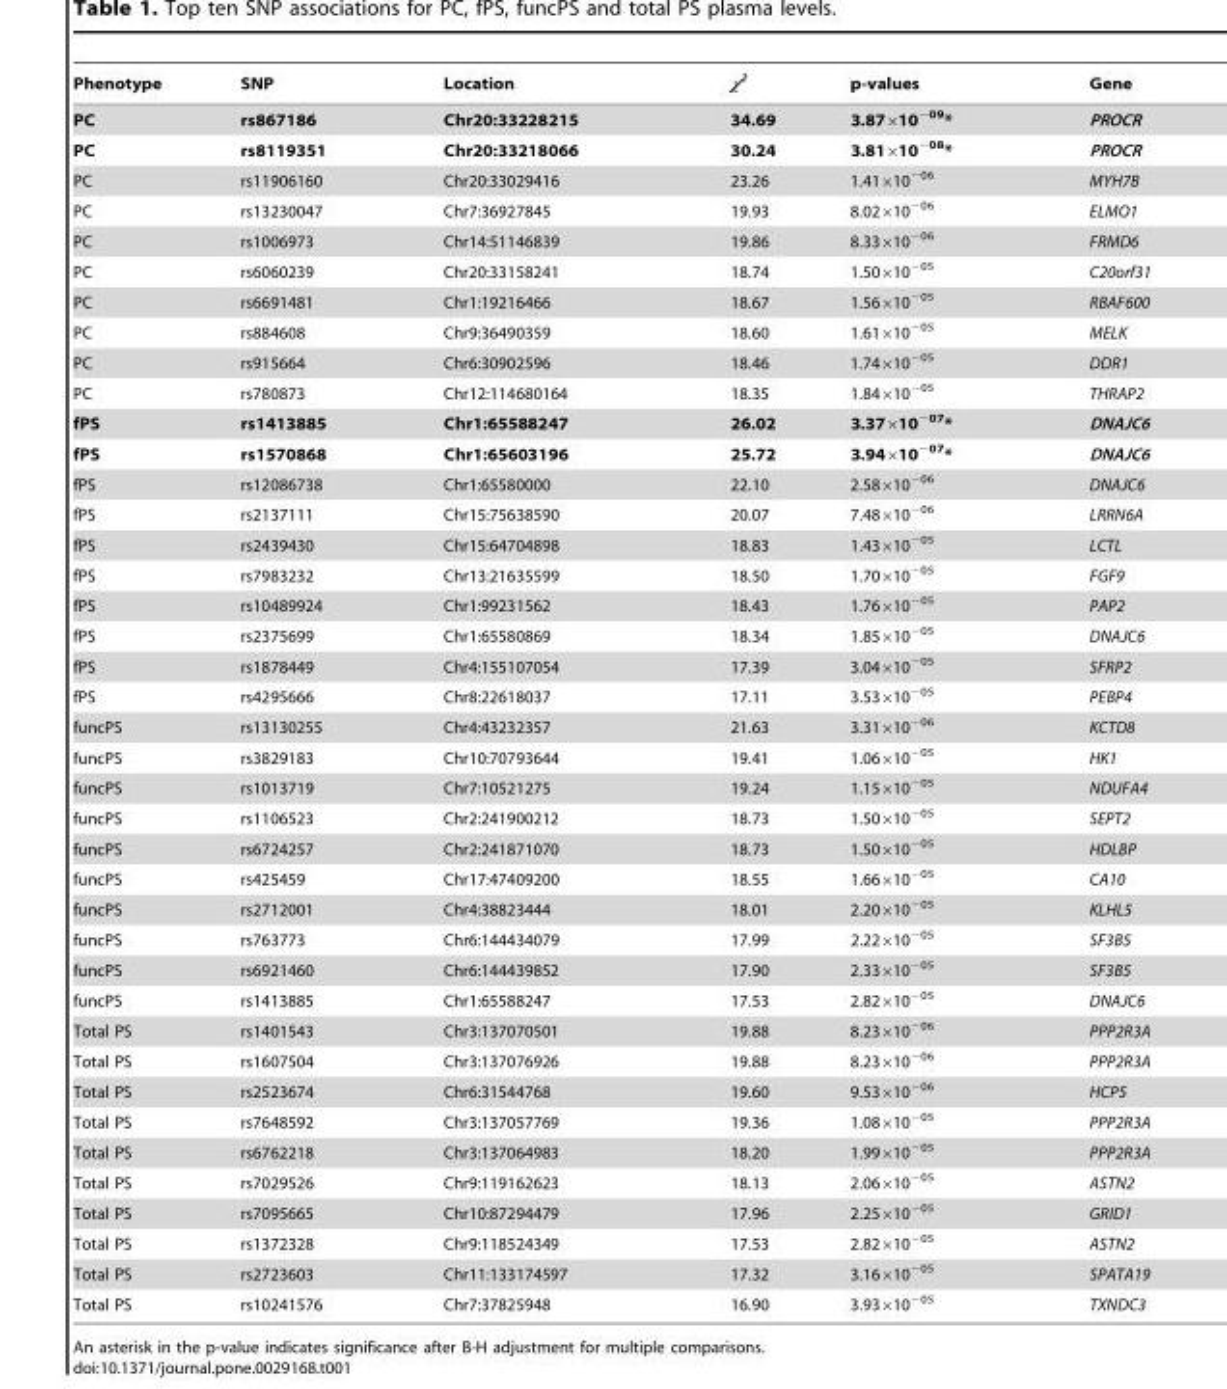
<table><thead><tr><td>Phenotype</td><td>SNP</td><td>Location</td><td>χ<sup>2</sup></td><td>p-values</td><td>Gene</td></tr></thead><tbody><tr><td>PC</td><td>rs867186</td><td>Chr20:33228215</td><td>34.69</td><td>3.87×10<sup>−09</sup>*</td><td>PROCR</td></tr><tr><td>PC</td><td>rs8119351</td><td>Chr20:33218066</td><td>30.24</td><td>3.81×10<sup>−08</sup>*</td><td>PROCR</td></tr><tr><td>PC</td><td>rs11906160</td><td>Chr20:33029416</td><td>23.26</td><td>1.41×10<sup>−06</sup></td><td>MYH7B</td></tr><tr><td>PC</td><td>rs13230047</td><td>Chr7:36927845</td><td>19.93</td><td>8.02×10<sup>−06</sup></td><td>ELMO1</td></tr><tr><td>PC</td><td>rs1006973</td><td>Chr14:51146839</td><td>19.86</td><td>8.33×10<sup>−06</sup></td><td>FRMD6</td></tr><tr><td>PC</td><td>rs6060239</td><td>Chr20:33158241</td><td>18.74</td><td>1.50×10<sup>−05</sup></td><td>C20orf31</td></tr><tr><td>PC</td><td>rs6691481</td><td>Chr1:19216466</td><td>18.67</td><td>1.56×10<sup>−05</sup></td><td>RBAF600</td></tr><tr><td>PC</td><td>rs884608</td><td>Chr9:36490359</td><td>18.60</td><td>1.61×10<sup>−05</sup></td><td>MELK</td></tr><tr><td>PC</td><td>rs915664</td><td>Chr6:30902596</td><td>18.46</td><td>1.74×10<sup>−05</sup></td><td>DDR1</td></tr><tr><td>PC</td><td>rs780873</td><td>Chr12:114680164</td><td>18.35</td><td>1.84×10<sup>−05</sup></td><td>THRAP2</td></tr><tr><td>fPS</td><td>rs1413885</td><td>Chr1:65588247</td><td>26.02</td><td>3.37×10<sup>−07</sup>*</td><td>DNAJC6</td></tr><tr><td>fPS</td><td>rs1570868</td><td>Chr1:65603196</td><td>25.72</td><td>3.94×10<sup>−07</sup>*</td><td>DNAJC6</td></tr><tr><td>fPS</td><td>rs12086738</td><td>Chr1:65580000</td><td>22.10</td><td>2.58×10<sup>−06</sup></td><td>DNAJC6</td></tr><tr><td>fPS</td><td>rs2137111</td><td>Chr15:75638590</td><td>20.07</td><td>7.48×10<sup>−06</sup></td><td>LRRN6A</td></tr><tr><td>fPS</td><td>rs2439430</td><td>Chr15:64704898</td><td>18.83</td><td>1.43×10<sup>−05</sup></td><td>LCTL</td></tr><tr><td>fPS</td><td>rs7983232</td><td>Chr13:21635599</td><td>18.50</td><td>1.70×10<sup>−05</sup></td><td>FGF9</td></tr><tr><td>fPS</td><td>rs10489924</td><td>Chr1:99231562</td><td>18.43</td><td>1.76×10<sup>−05</sup></td><td>PAP2</td></tr><tr><td>fPS</td><td>rs2375699</td><td>Chr1:65580869</td><td>18.34</td><td>1.85×10<sup>−05</sup></td><td>DNAJC6</td></tr><tr><td>fPS</td><td>rs1878449</td><td>Chr4:155107054</td><td>17.39</td><td>3.04×10<sup>−05</sup></td><td>SFRP2</td></tr><tr><td>fPS</td><td>rs4295666</td><td>Chr8:22618037</td><td>17.11</td><td>3.53×10<sup>−05</sup></td><td>PEBP4</td></tr><tr><td>funcPS</td><td>rs13130255</td><td>Chr4:43232357</td><td>21.63</td><td>3.31×10<sup>−06</sup></td><td>KCTD8</td></tr><tr><td>funcPS</td><td>rs3829183</td><td>Chr10:70793644</td><td>19.41</td><td>1.06×10<sup>−05</sup></td><td>HK1</td></tr><tr><td>funcPS</td><td>rs1013719</td><td>Chr7:10521275</td><td>19.24</td><td>1.15×10<sup>−05</sup></td><td>NDUFA4</td></tr><tr><td>funcPS</td><td>rs1106523</td><td>Chr2:241900212</td><td>18.73</td><td>1.50×10<sup>−05</sup></td><td>SEPT2</td></tr><tr><td>funcPS</td><td>rs6724257</td><td>Chr2:241871070</td><td>18.73</td><td>1.50×10<sup>−05</sup></td><td>HDLBP</td></tr><tr><td>funcPS</td><td>rs425459</td><td>Chr17:47409200</td><td>18.55</td><td>1.66×10<sup>−05</sup></td><td>CA10</td></tr><tr><td>funcPS</td><td>rs2712001</td><td>Chr4:38823444</td><td>18.01</td><td>2.20×10<sup>−05</sup></td><td>KLHL5</td></tr><tr><td>funcPS</td><td>rs763773</td><td>Chr6:144434079</td><td>17.99</td><td>2.22×10<sup>−05</sup></td><td>SF3B5</td></tr><tr><td>funcPS</td><td>rs6921460</td><td>Chr6:144439852</td><td>17.90</td><td>2.33×10<sup>−05</sup></td><td>SF3B5</td></tr><tr><td>funcPS</td><td>rs1413885</td><td>Chr1:65588247</td><td>17.53</td><td>2.82×10<sup>−05</sup></td><td>DNAJC6</td></tr><tr><td>Total PS</td><td>rs1401543</td><td>Chr3:137070501</td><td>19.88</td><td>8.23×10<sup>−06</sup></td><td>PPP2R3A</td></tr><tr><td>Total PS</td><td>rs1607504</td><td>Chr3:137076926</td><td>19.88</td><td>8.23×10<sup>−06</sup></td><td>PPP2R3A</td></tr><tr><td>Total PS</td><td>rs2523674</td><td>Chr6:31544768</td><td>19.60</td><td>9.53×10<sup>−06</sup></td><td>HCP5</td></tr><tr><td>Total PS</td><td>rs7648592</td><td>Chr3:137057769</td><td>19.36</td><td>1.08×10<sup>−05</sup></td><td>PPP2R3A</td></tr><tr><td>Total PS</td><td>rs6762218</td><td>Chr3:137064983</td><td>18.20</td><td>1.99×10<sup>−05</sup></td><td>PPP2R3A</td></tr><tr><td>Total PS</td><td>rs7029526</td><td>Chr9:119162623</td><td>18.13</td><td>2.06×10<sup>−05</sup></td><td>ASTN2</td></tr><tr><td>Total PS</td><td>rs7095665</td><td>Chr10:87294479</td><td>17.96</td><td>2.25×10<sup>−05</sup></td><td>GRID1</td></tr><tr><td>Total PS</td><td>rs1372328</td><td>Chr9:118524349</td><td>17.53</td><td>2.82×10<sup>−05</sup></td><td>ASTN2</td></tr><tr><td>Total PS</td><td>rs2723603</td><td>Chr11:133174597</td><td>17.32</td><td>3.16×10<sup>−05</sup></td><td>SPATA19</td></tr><tr><td>Total PS</td><td>rs10241576</td><td>Chr7:37825948</td><td>16.90</td><td>3.93×10<sup>−05</sup></td><td>TXNDC3</td></tr></tbody></table>